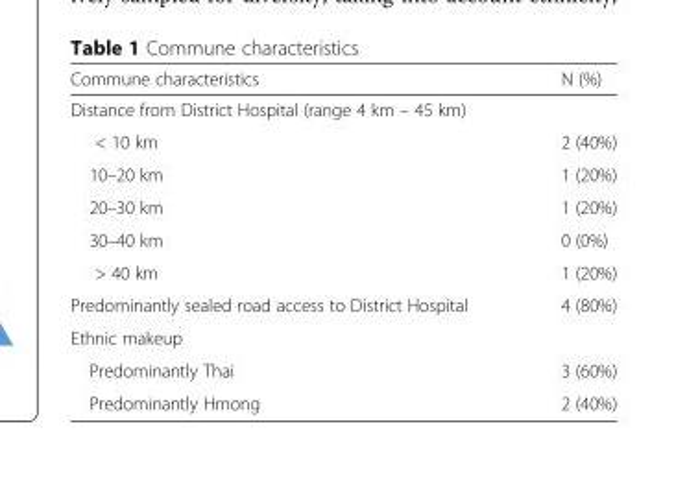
<table><thead><tr><td>Commune characteristics</td><td>N (%)</td></tr></thead><tbody><tr><td colspan="2">Distance from District Hospital (range 4 km – 45 km)</td></tr><tr><td>&lt; 10 km</td><td>2 (40%)</td></tr><tr><td>10–20 km</td><td>1 (20%)</td></tr><tr><td>20–30 km</td><td>1 (20%)</td></tr><tr><td>30–40 km</td><td>0 (0%)</td></tr><tr><td>&gt; 40 km</td><td>1 (20%)</td></tr><tr><td>Predominantly sealed road access to District Hospital</td><td>4 (80%)</td></tr><tr><td colspan="2">Ethnic makeup</td></tr><tr><td>Predominantly Thai</td><td>3 (60%)</td></tr><tr><td>Predominantly Hmong</td><td>2 (40%)</td></tr></tbody></table>